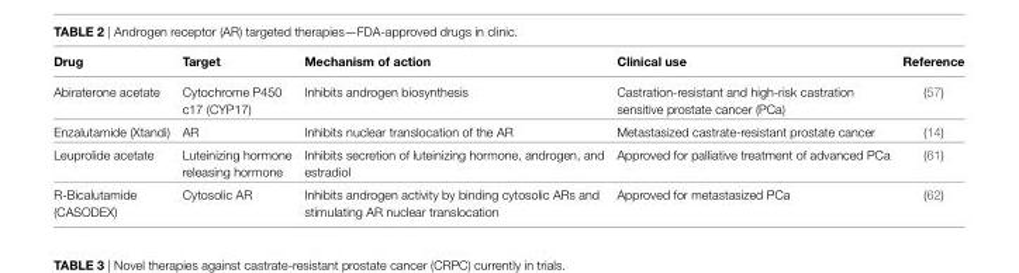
<table><thead><tr><td>Drug</td><td>Target</td><td>Mechanism of action</td><td>Clinical use</td><td>Reference</td></tr></thead><tbody><tr><td>Abiraterone acetate</td><td>Cytochrome P450 c17 (CYP17)</td><td>Inhibits androgen biosynthesis</td><td>Castration-resistant and high-risk castration sensitive prostate cancer (PCa)</td><td>(57)</td></tr><tr><td>Enzalutamide (Xtandi)</td><td>AR</td><td>Inhibits nuclear translocation of the AR</td><td>Metastasized castrate-resistant prostate cancer</td><td>(14)</td></tr><tr><td>Leuprolide acetate</td><td>Luteinizing hormone releasing hormone</td><td>Inhibits secretion of luteinizing hormone, androgen, and estradiol</td><td>Approved for palliative treatment of advanced PCa</td><td>(61)</td></tr><tr><td>R-Bicalutamide (CASODEX)</td><td>Cytosolic AR</td><td>Inhibits androgen activity by binding cytosolic ARs and stimulating AR nuclear translocation</td><td>Approved for metastasized PCa</td><td>(62)</td></tr></tbody></table>